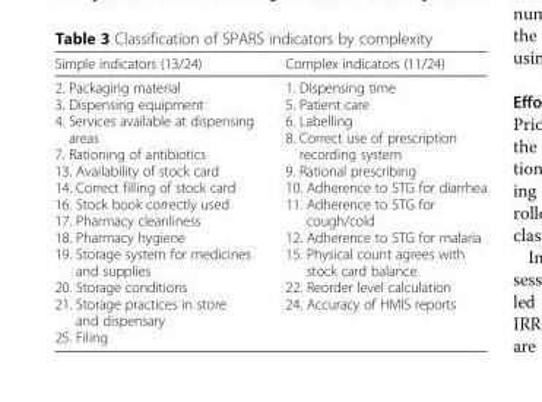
<table><thead><tr><td>Simple indicators (13/24)</td><td>Complex indicators (11/24)</td></tr></thead><tbody><tr><td>2. Packaging material 3. Dispensing equipment 4. Services available at dispensing areas 7. Rationing of antibiotics 13. Availability of stock card 14. Correct filling of stock card 16. Stock book correctly used 17. Pharmacy cleanliness 18. Pharmacy hygiene 19. Storage system for medicines and supplies 20. Storage conditions 21. Storage practices in store and dispensary 25. Filing</td><td>1. Dispensing time 5. Patient care 6. Labelling 8. Correct use of prescription recording system 9. Rational prescribing 10. Adherence to STG for diarrhea 11. Adherence to STG for cough/cold 12. Adherence to STG for malaria 15. Physical count agrees with stock card balance 22. Reorder level calculation 24. Accuracy of HMIS reports</td></tr></tbody></table>